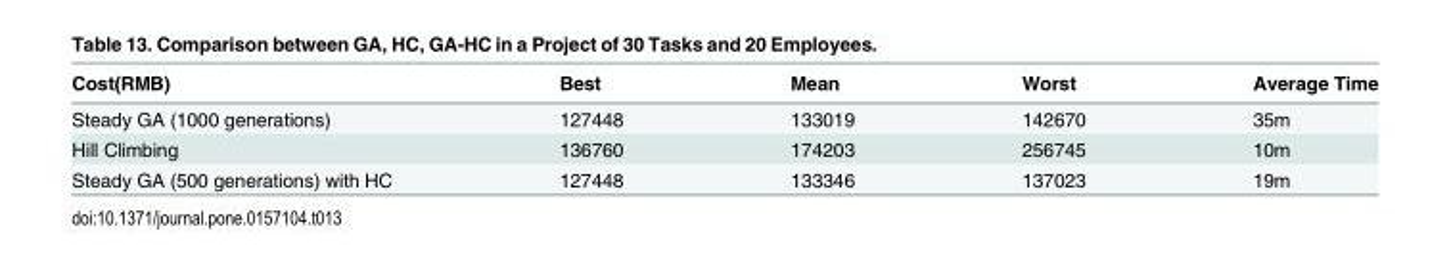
<table><thead><tr><td>Cost(RMB)</td><td>Best</td><td>Mean</td><td>Worst</td><td>Average Time</td></tr></thead><tbody><tr><td>Steady GA (1000 generations)</td><td>127448</td><td>133019</td><td>142670</td><td>35m</td></tr><tr><td>Hill Climbing</td><td>136760</td><td>174203</td><td>256745</td><td>10m</td></tr><tr><td>Steady GA (500 generations) with HC</td><td>127448</td><td>133346</td><td>137023</td><td>19m</td></tr></tbody></table>